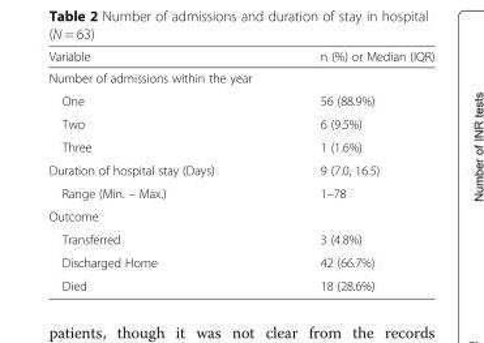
<table><thead><tr><td>Variable</td><td>n (%) or Median (IQR)</td></tr></thead><tbody><tr><td colspan="2">Number of admissions within the year</td></tr><tr><td>One</td><td>56 (88.9%)</td></tr><tr><td>Two</td><td>6 (9.5%)</td></tr><tr><td>Three</td><td>1 (1.6%)</td></tr><tr><td>Duration of hospital stay (Days)</td><td>9 (7.0, 16.5)</td></tr><tr><td>Range (Min. – Max.)</td><td>1–78</td></tr><tr><td colspan="2">Outcome</td></tr><tr><td>Transferred</td><td>3 (4.8%)</td></tr><tr><td>Discharged Home</td><td>42 (66.7%)</td></tr><tr><td>Died</td><td>18 (28.6%)</td></tr></tbody></table>